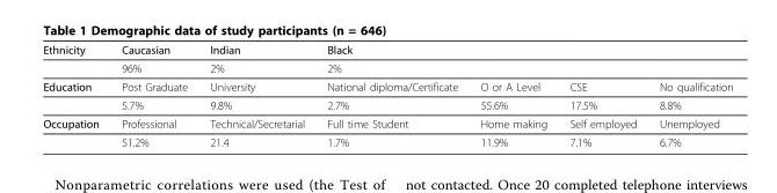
<table><thead><tr><td>Ethnicity</td><td>Caucasian</td><td>Indian</td><td>Black</td><td></td><td></td><td></td></tr></thead><tbody><tr><td></td><td>96%</td><td>2%</td><td>2%</td><td></td><td></td><td></td></tr><tr><td rowspan="2">Education</td><td>Post Graduate</td><td>University</td><td>National diploma/Certificate</td><td>O or A Level</td><td>CSE</td><td>No qualification</td></tr><tr><td>5.7%</td><td>9.8%</td><td>2.7%</td><td>55.6%</td><td>17.5%</td><td>8.8%</td></tr><tr><td rowspan="2">Occupation</td><td>Professional</td><td>Technical/Secretarial</td><td>Full time Student</td><td>Home making</td><td>Self employed</td><td>Unemployed</td></tr><tr><td>51.2%</td><td>21.4</td><td>1.7%</td><td>11.9%</td><td>7.1%</td><td>6.7%</td></tr></tbody></table>